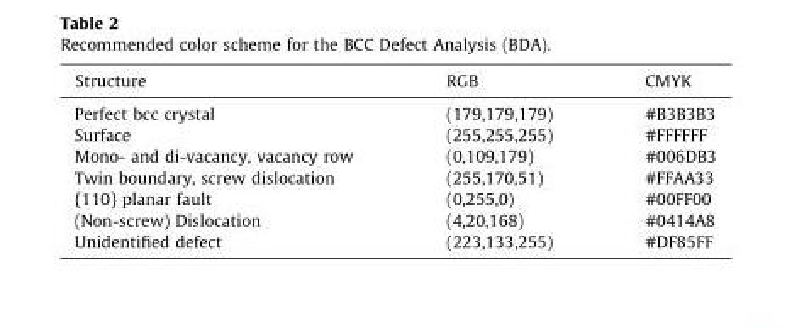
<table><thead><tr><td>Structure</td><td>RGB</td><td>CMYK</td></tr></thead><tbody><tr><td>Perfect bcc crystal</td><td>(179,179,179)</td><td>#B3B3B3</td></tr><tr><td>Surface</td><td>(255,255,255)</td><td>#FFFFFF</td></tr><tr><td>Mono- and di-vacancy, vacancy row</td><td>(0,109,179)</td><td>#006DB3</td></tr><tr><td>Twin boundary, screw dislocation</td><td>(255,170,51)</td><td>#FFAA33</td></tr><tr><td>{110} planar fault</td><td>(0,255,0)</td><td>#00FF00</td></tr><tr><td>(Non-screw) Dislocation</td><td>(4,20,168)</td><td>#0414A8</td></tr><tr><td>Unidentified defect</td><td>(223,133,255)</td><td>#DF85FF</td></tr></tbody></table>